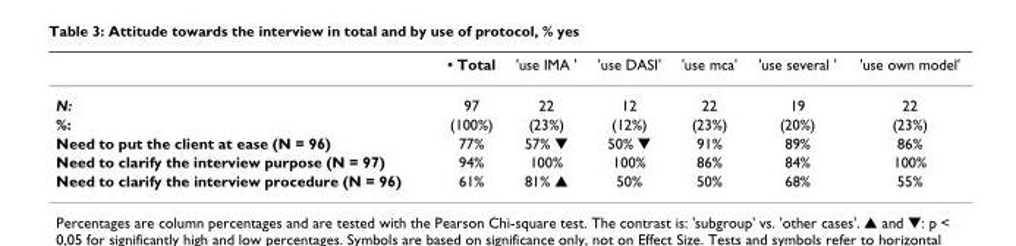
<table><thead><tr><td></td><td>• Total</td><td>&#x27;use IMA &#x27;</td><td>&#x27;use DASI&#x27;</td><td>&#x27;use mca&#x27;</td><td>&#x27;use several &#x27;</td><td>&#x27;use own model&#x27;</td></tr></thead><tbody><tr><td>N:</td><td>97</td><td>22</td><td>12</td><td>22</td><td>19</td><td>22</td></tr><tr><td>%:</td><td>(100%)</td><td>(23%)</td><td>(12%)</td><td>(23%)</td><td>(20%)</td><td>(23%)</td></tr><tr><td>Need to put the client at ease (N = 96)</td><td>77%</td><td>57% ▼</td><td>50% ▼</td><td>91%</td><td>89%</td><td>86%</td></tr><tr><td>Need to clarify the interview purpose (N = 97)</td><td>94%</td><td>100%</td><td>100%</td><td>86%</td><td>84%</td><td>100%</td></tr><tr><td>Need to clarify the interview procedure (N = 96)</td><td>61%</td><td>81% ▲</td><td>50%</td><td>50%</td><td>68%</td><td>55%</td></tr></tbody></table>